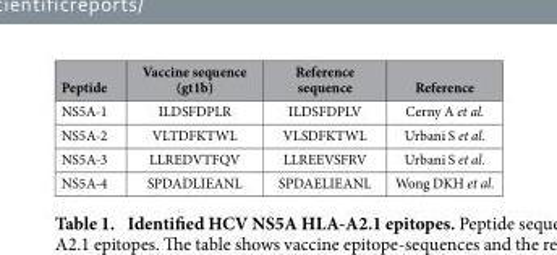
<table><thead><tr><td>Peptide</td><td>Vaccine sequence (gt1b)</td><td>Reference sequence</td><td>Reference</td></tr></thead><tbody><tr><td>NS5A-1</td><td>ILDSFDPLR</td><td>ILDSFDPLV</td><td>Cerny A et al.</td></tr><tr><td>NS5A-2</td><td>VLTDFKTWL</td><td>VLSDFKTWL</td><td>Urbani S et al.</td></tr><tr><td>NS5A-3</td><td>LLREDVTFQV</td><td>LLREEVSFRV</td><td>Urbani S et al.</td></tr><tr><td>NS5A-4</td><td>SPDADLIEANL</td><td>SPDAELIEANL</td><td>Wong DKH et al.</td></tr></tbody></table>